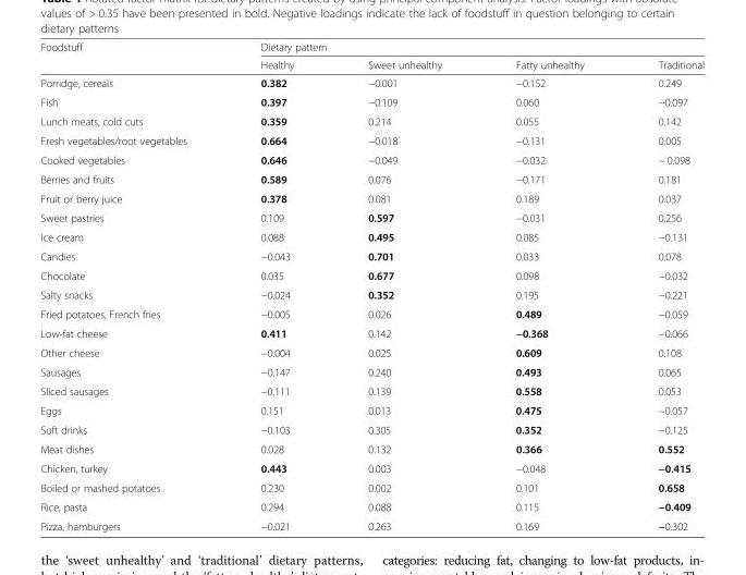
<table><thead><tr><td rowspan="2">Foodstuff</td><td colspan="4">Dietary pattern</td></tr><tr><td>Healthy</td><td>Sweet unhealthy</td><td>Fatty unhealthy</td><td>Traditional</td></tr></thead><tbody><tr><td>Porridge, cereals</td><td>0.382</td><td>−0.001</td><td>−0.152</td><td>0.249</td></tr><tr><td>Fish</td><td>0.397</td><td>−0.109</td><td>0.060</td><td>−0.097</td></tr><tr><td>Lunch meats, cold cuts</td><td>0.359</td><td>0.214</td><td>0.055</td><td>0.142</td></tr><tr><td>Fresh vegetables/root vegetables</td><td>0.664</td><td>−0.018</td><td>−0.131</td><td>0.005</td></tr><tr><td>Cooked vegetables</td><td>0.646</td><td>−0.049</td><td>−0.032</td><td>− 0.098</td></tr><tr><td>Berries and fruits</td><td>0.589</td><td>0.076</td><td>−0.171</td><td>0.181</td></tr><tr><td>Fruit or berry juice</td><td>0.378</td><td>0.081</td><td>0.189</td><td>0.037</td></tr><tr><td>Sweet pastries</td><td>0.109</td><td>0.597</td><td>−0.031</td><td>0.256</td></tr><tr><td>Ice cream</td><td>0.088</td><td>0.495</td><td>0.085</td><td>−0.131</td></tr><tr><td>Candies</td><td>−0.043</td><td>0.701</td><td>0.033</td><td>0.078</td></tr><tr><td>Chocolate</td><td>0.035</td><td>0.677</td><td>0.098</td><td>−0.032</td></tr><tr><td>Salty snacks</td><td>−0.024</td><td>0.352</td><td>0.195</td><td>−0.221</td></tr><tr><td>Fried potatoes, French fries</td><td>−0.005</td><td>0.026</td><td>0.489</td><td>−0.059</td></tr><tr><td>Low-fat cheese</td><td>0.411</td><td>0.142</td><td>−0.368</td><td>−0.066</td></tr><tr><td>Other cheese</td><td>−0.004</td><td>0.025</td><td>0.609</td><td>0.108</td></tr><tr><td>Sausages</td><td>−0.147</td><td>0.240</td><td>0.493</td><td>0.065</td></tr><tr><td>Sliced sausages</td><td>−0.111</td><td>0.139</td><td>0.558</td><td>0.053</td></tr><tr><td>Eggs</td><td>0.151</td><td>0.013</td><td>0.475</td><td>−0.057</td></tr><tr><td>Soft drinks</td><td>−0.103</td><td>0.305</td><td>0.352</td><td>−0.125</td></tr><tr><td>Meat dishes</td><td>0.028</td><td>0.132</td><td>0.366</td><td>0.552</td></tr><tr><td>Chicken, turkey</td><td>0.443</td><td>0.003</td><td>−0.048</td><td>−0.415</td></tr><tr><td>Boiled or mashed potatoes</td><td>0.230</td><td>0.002</td><td>0.101</td><td>0.658</td></tr><tr><td>Rice, pasta</td><td>0.294</td><td>0.088</td><td>0.115</td><td>−0.409</td></tr><tr><td>Pizza, hamburgers</td><td>−0.021</td><td>0.263</td><td>0.169</td><td>−0.302</td></tr></tbody></table>